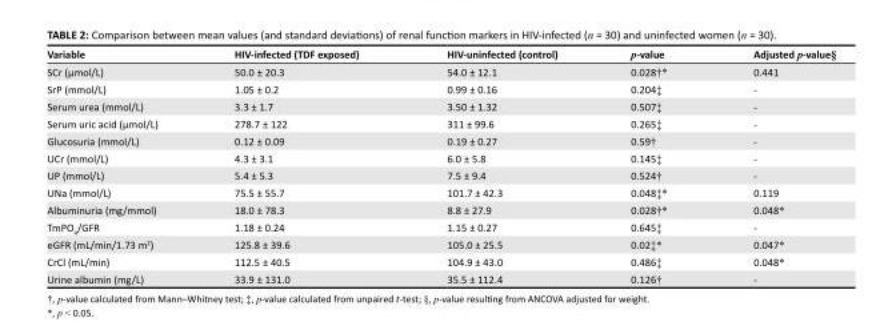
<table><thead><tr><td>Variable</td><td>HIV-infected (TDF exposed)</td><td>HIV-uninfected (control)</td><td>p-value</td><td>Adjusted p-value§</td></tr></thead><tbody><tr><td>SCr (µmol/L)</td><td>50.0 ± 20.3</td><td>54.0 ± 12.1</td><td>0.028†*</td><td>0.441</td></tr><tr><td>SrP (mmol/L)</td><td>1.05 ± 0.2</td><td>0.99 ± 0.16</td><td>0.204‡</td><td>-</td></tr><tr><td>Serum urea (mmol/L)</td><td>3.3 ± 1.7</td><td>3.50 ± 1.32</td><td>0.507‡</td><td>-</td></tr><tr><td>Serum uric acid (µmol/L)</td><td>278.7 ± 122</td><td>311 ± 99.6</td><td>0.265‡</td><td>-</td></tr><tr><td>Glucosuria (mmol/L)</td><td>0.12 ± 0.09</td><td>0.19 ± 0.27</td><td>0.59†</td><td>-</td></tr><tr><td>UCr (mmol/L)</td><td>4.3 ± 3.1</td><td>6.0 ± 5.8</td><td>0.145‡</td><td>-</td></tr><tr><td>UP (mmol/L)</td><td>5.4 ± 5.3</td><td>7.5 ± 9.4</td><td>0.524†</td><td>-</td></tr><tr><td>UNa (mmol/L)</td><td>75.5 ± 55.7</td><td>101.7 ± 42.3</td><td>0.048‡*</td><td>0.119</td></tr><tr><td>Albuminuria (mg/mmol)</td><td>18.0 ± 78.3</td><td>8.8 ± 27.9</td><td>0.028†*</td><td>0.048*</td></tr><tr><td>TmPO<sub>4</sub>/GFR</td><td>1.18 ± 0.24</td><td>1.15 ± 0.27</td><td>0.645‡</td><td>-</td></tr><tr><td>eGFR (mL/min/1.73 m<sup>2</sup>)</td><td>125.8 ± 39.6</td><td>105.0 ± 25.5</td><td>0.02‡*</td><td>0.047*</td></tr><tr><td>CrCl (mL/min)</td><td>112.5 ± 40.5</td><td>104.9 ± 43.0</td><td>0.486‡</td><td>0.048*</td></tr><tr><td>Urine albumin (mg/L)</td><td>33.9 ± 131.0</td><td>35.5 ± 112.4</td><td>0.126†</td><td>-</td></tr></tbody></table>